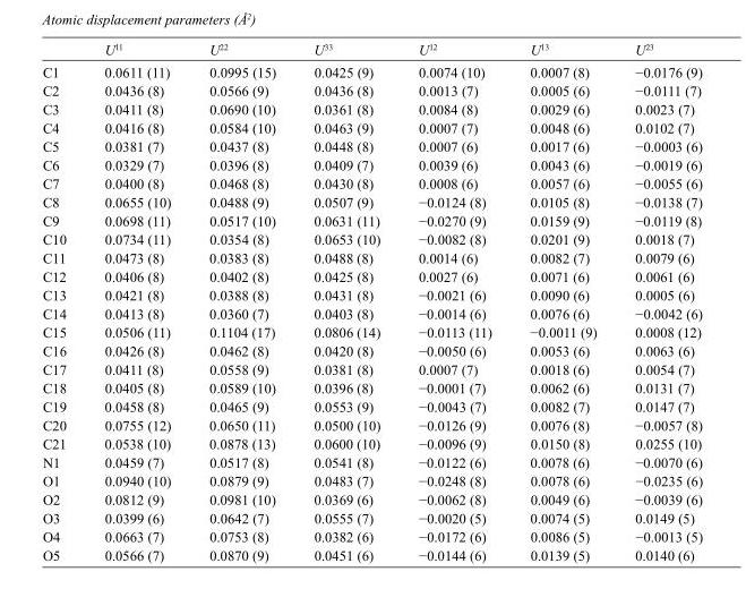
<table><thead><tr><td></td><td>U<sup>11</sup></td><td>U<sup>22</sup></td><td>U<sup>33</sup></td><td>U<sup>12</sup></td><td>U<sup>13</sup></td><td>U<sup>23</sup></td></tr></thead><tbody><tr><td>C1</td><td>0.0611 (11)</td><td>0.0995 (15)</td><td>0.0425 (9)</td><td>0.0074 (10)</td><td>0.0007 (8)</td><td>−0.0176 (9)</td></tr><tr><td>C2</td><td>0.0436 (8)</td><td>0.0566 (9)</td><td>0.0436 (8)</td><td>0.0013 (7)</td><td>0.0005 (6)</td><td>−0.0111 (7)</td></tr><tr><td>C3</td><td>0.0411 (8)</td><td>0.0690 (10)</td><td>0.0361 (8)</td><td>0.0084 (8)</td><td>0.0029 (6)</td><td>0.0023 (7)</td></tr><tr><td>C4</td><td>0.0416 (8)</td><td>0.0584 (10)</td><td>0.0463 (9)</td><td>0.0007 (7)</td><td>0.0048 (6)</td><td>0.0102 (7)</td></tr><tr><td>C5</td><td>0.0381 (7)</td><td>0.0437 (8)</td><td>0.0448 (8)</td><td>0.0007 (6)</td><td>0.0017 (6)</td><td>−0.0003 (6)</td></tr><tr><td>C6</td><td>0.0329 (7)</td><td>0.0396 (8)</td><td>0.0409 (7)</td><td>0.0039 (6)</td><td>0.0043 (6)</td><td>−0.0019 (6)</td></tr><tr><td>C7</td><td>0.0400 (8)</td><td>0.0468 (8)</td><td>0.0430 (8)</td><td>0.0008 (6)</td><td>0.0057 (6)</td><td>−0.0055 (6)</td></tr><tr><td>C8</td><td>0.0655 (10)</td><td>0.0488 (9)</td><td>0.0507 (9)</td><td>−0.0124 (8)</td><td>0.0105 (8)</td><td>−0.0138 (7)</td></tr><tr><td>C9</td><td>0.0698 (11)</td><td>0.0517 (10)</td><td>0.0631 (11)</td><td>−0.0270 (9)</td><td>0.0159 (9)</td><td>−0.0119 (8)</td></tr><tr><td>C10</td><td>0.0734 (11)</td><td>0.0354 (8)</td><td>0.0653 (10)</td><td>−0.0082 (8)</td><td>0.0201 (9)</td><td>0.0018 (7)</td></tr><tr><td>C11</td><td>0.0473 (8)</td><td>0.0383 (8)</td><td>0.0488 (8)</td><td>0.0014 (6)</td><td>0.0082 (7)</td><td>0.0079 (6)</td></tr><tr><td>C12</td><td>0.0406 (8)</td><td>0.0402 (8)</td><td>0.0425 (8)</td><td>0.0027 (6)</td><td>0.0071 (6)</td><td>0.0061 (6)</td></tr><tr><td>C13</td><td>0.0421 (8)</td><td>0.0388 (8)</td><td>0.0431 (8)</td><td>−0.0021 (6)</td><td>0.0090 (6)</td><td>0.0005 (6)</td></tr><tr><td>C14</td><td>0.0413 (8)</td><td>0.0360 (7)</td><td>0.0403 (8)</td><td>−0.0014 (6)</td><td>0.0076 (6)</td><td>−0.0042 (6)</td></tr><tr><td>C15</td><td>0.0506 (11)</td><td>0.1104 (17)</td><td>0.0806 (14)</td><td>−0.0113 (11)</td><td>−0.0011 (9)</td><td>0.0008 (12)</td></tr><tr><td>C16</td><td>0.0426 (8)</td><td>0.0462 (8)</td><td>0.0420 (8)</td><td>−0.0050 (6)</td><td>0.0053 (6)</td><td>0.0063 (6)</td></tr><tr><td>C17</td><td>0.0411 (8)</td><td>0.0558 (9)</td><td>0.0381 (8)</td><td>0.0007 (7)</td><td>0.0018 (6)</td><td>0.0054 (7)</td></tr><tr><td>C18</td><td>0.0405 (8)</td><td>0.0589 (10)</td><td>0.0396 (8)</td><td>−0.0001 (7)</td><td>0.0062 (6)</td><td>0.0131 (7)</td></tr><tr><td>C19</td><td>0.0458 (8)</td><td>0.0465 (9)</td><td>0.0553 (9)</td><td>−0.0043 (7)</td><td>0.0082 (7)</td><td>0.0147 (7)</td></tr><tr><td>C20</td><td>0.0755 (12)</td><td>0.0650 (11)</td><td>0.0500 (10)</td><td>−0.0126 (9)</td><td>0.0076 (8)</td><td>−0.0057 (8)</td></tr><tr><td>C21</td><td>0.0538 (10)</td><td>0.0878 (13)</td><td>0.0600 (10)</td><td>−0.0096 (9)</td><td>0.0150 (8)</td><td>0.0255 (10)</td></tr><tr><td>N1</td><td>0.0459 (7)</td><td>0.0517 (8)</td><td>0.0541 (8)</td><td>−0.0122 (6)</td><td>0.0078 (6)</td><td>−0.0070 (6)</td></tr><tr><td>O1</td><td>0.0940 (10)</td><td>0.0879 (9)</td><td>0.0483 (7)</td><td>−0.0248 (8)</td><td>0.0078 (6)</td><td>−0.0235 (6)</td></tr><tr><td>O2</td><td>0.0812 (9)</td><td>0.0981 (10)</td><td>0.0369 (6)</td><td>−0.0062 (8)</td><td>0.0049 (6)</td><td>−0.0039 (6)</td></tr><tr><td>O3</td><td>0.0399 (6)</td><td>0.0642 (7)</td><td>0.0555 (7)</td><td>−0.0020 (5)</td><td>0.0074 (5)</td><td>0.0149 (5)</td></tr><tr><td>O4</td><td>0.0663 (7)</td><td>0.0753 (8)</td><td>0.0382 (6)</td><td>−0.0172 (6)</td><td>0.0086 (5)</td><td>−0.0013 (5)</td></tr><tr><td>O5</td><td>0.0566 (7)</td><td>0.0870 (9)</td><td>0.0451 (6)</td><td>−0.0144 (6)</td><td>0.0139 (5)</td><td>0.0140 (6)</td></tr></tbody></table>